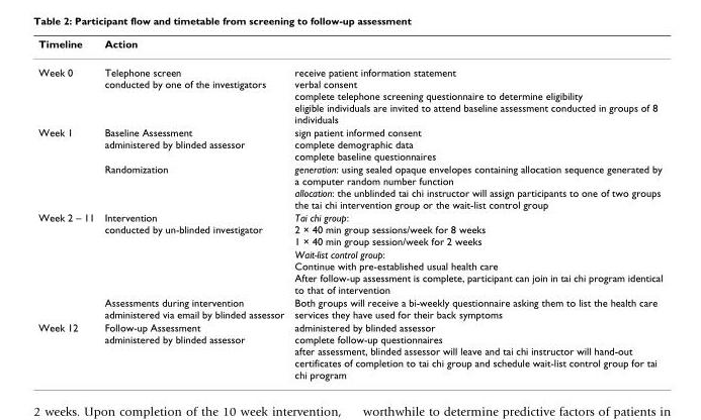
<table><thead><tr><td>Timeline</td><td>Action</td><td></td></tr></thead><tbody><tr><td>Week 0</td><td>Telephone screen conducted by one of the investigators</td><td>receive patient information statement verbal consent complete telephone screening questionnaire to determine eligibility eligible individuals are invited to attend baseline assessment conducted in groups of 8 individuals</td></tr><tr><td rowspan="2">Week 1</td><td>Baseline Assessment administered by blinded assessor</td><td>sign patient informed consent complete demographic data complete baseline questionnaires</td></tr><tr><td>Randomization</td><td>generation: using sealed opaque envelopes containing allocation sequence generated by a computer random number function allocation: the unblinded tai chi instructor will assign participants to one of two groups the tai chi intervention group or the wait-list control group</td></tr><tr><td rowspan="3">Week 2 – 11</td><td>Intervention conducted by un-blinded investigator</td><td>Tai chi group: 2 × 40 min group sessions/week for 8 weeks 1 × 40 min group session/week for 2 weeks</td></tr><tr><td></td><td>Wait-list control group: Continue with pre-established usual health care After follow-up assessment is complete, participant can join in tai chi program identical to that of intervention</td></tr><tr><td>Assessments during intervention administered via email by blinded assessor</td><td>Both groups will receive a bi-weekly questionnaire asking them to list the health care services they have used for their back symptoms</td></tr><tr><td>Week 12</td><td>Follow-up Assessment administered by blinded assessor</td><td>administered by blinded assessor complete follow-up questionnaires after assessment, blinded assessor will leave and tai chi instructor will hand-out certificates of completion to tai chi group and schedule wait-list control group for tai chi program</td></tr></tbody></table>